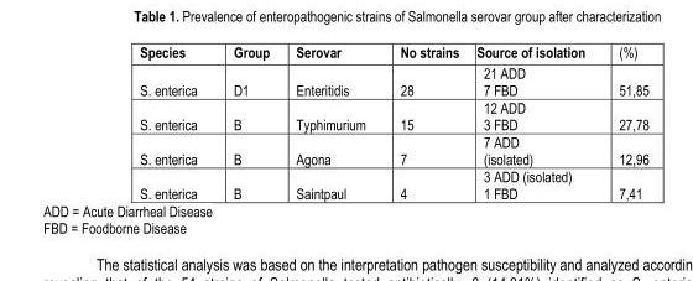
<table><thead><tr><td>Species</td><td>Group</td><td>Serovar</td><td>No strains</td><td>Source of isolation</td><td>(%)</td></tr></thead><tbody><tr><td>S. enterica</td><td>D1</td><td>Enteritidis</td><td>28</td><td>21 ADD 7 FBD</td><td>51,85</td></tr><tr><td>S. enterica</td><td>B</td><td>Typhimurium</td><td>15</td><td>12 ADD 3 FBD</td><td>27,78</td></tr><tr><td>S. enterica</td><td>B</td><td>Agona</td><td>7</td><td>7 ADD (isolated)</td><td>12,96</td></tr><tr><td>S. enterica</td><td>B</td><td>Saintpaul</td><td>4</td><td>3 ADD (isolated) 1 FBD</td><td>7,41</td></tr><tr><td>ADD = Acute Diarrheal Disease FBD = Foodborne Disease</td><td></td><td></td><td></td><td></td><td></td></tr></tbody></table>